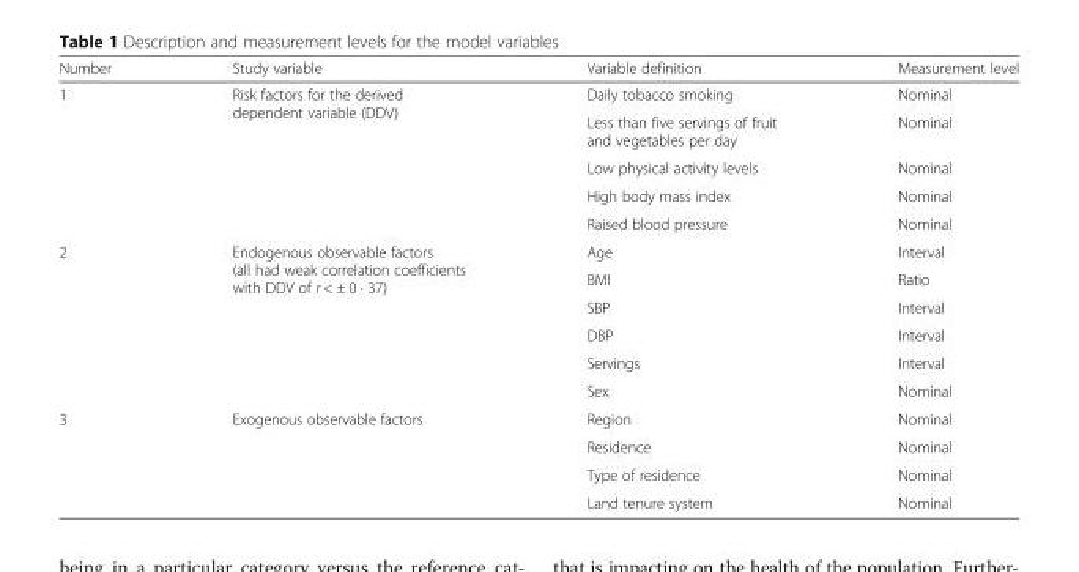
<table><thead><tr><td>Number</td><td>Study variable</td><td>Variable definition</td><td>Measurement level</td></tr></thead><tbody><tr><td rowspan="5">1</td><td rowspan="5">Risk factors for the derived dependent variable (DDV)</td><td>Daily tobacco smoking</td><td>Nominal</td></tr><tr><td>Less than five servings of fruit and vegetables per day</td><td>Nominal</td></tr><tr><td>Low physical activity levels</td><td>Nominal</td></tr><tr><td>High body mass index</td><td>Nominal</td></tr><tr><td>Raised blood pressure</td><td>Nominal</td></tr><tr><td rowspan="6">2</td><td rowspan="6">Endogenous observable factors (all had weak correlation coefficients with DDV of r &lt; ± 0 ⋅ 37)</td><td>Age</td><td>Interval</td></tr><tr><td>BMI</td><td>Ratio</td></tr><tr><td>SBP</td><td>Interval</td></tr><tr><td>DBP</td><td>Interval</td></tr><tr><td>Servings</td><td>Interval</td></tr><tr><td>Sex</td><td>Nominal</td></tr><tr><td rowspan="4">3</td><td rowspan="4">Exogenous observable factors</td><td>Region</td><td>Nominal</td></tr><tr><td>Residence</td><td>Nominal</td></tr><tr><td>Type of residence</td><td>Nominal</td></tr><tr><td>Land tenure system</td><td>Nominal</td></tr></tbody></table>